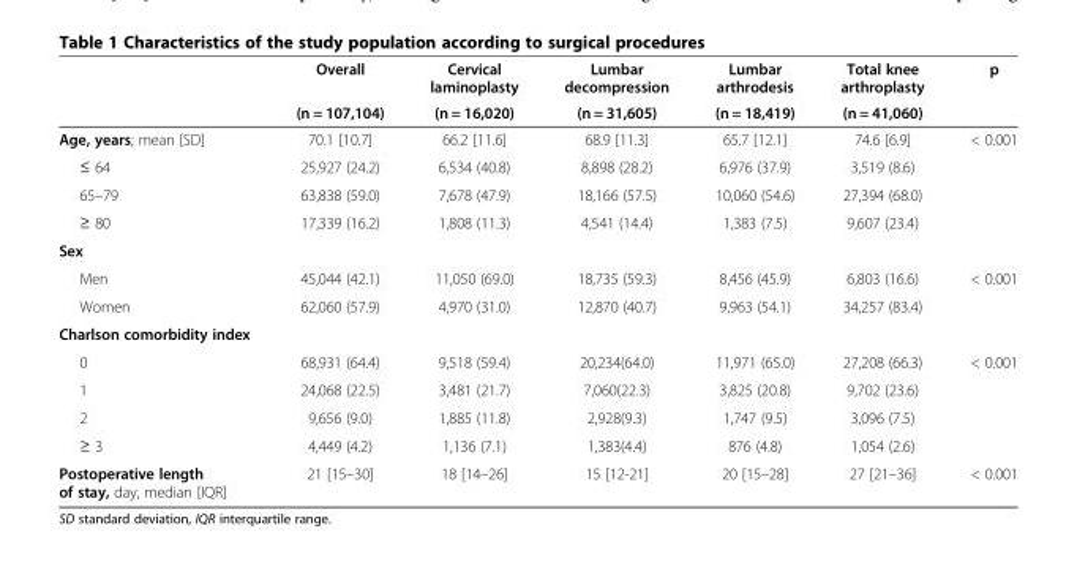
<table><thead><tr><td rowspan="2"></td><td rowspan="2">Overall (n = 107,104)</td><td rowspan="2">Cervical laminoplasty (n = 16,020)</td><td rowspan="2">Lumbar decompression (n = 31,605)</td><td rowspan="2">Lumbar arthrodesis (n = 18,419)</td><td rowspan="2">Total knee arthroplasty (n = 41,060)</td><td rowspan="2">p</td></tr><tr></tr></thead><tbody><tr><td>Age, years; mean [SD]</td><td>70.1 [10.7]</td><td>66.2 [11.6]</td><td>68.9 [11.3]</td><td>65.7 [12.1]</td><td>74.6 [6.9]</td><td>&lt; 0.001</td></tr><tr><td>≤ 64</td><td>25,927 (24.2)</td><td>6,534 (40.8)</td><td>8,898 (28.2)</td><td>6,976 (37.9)</td><td>3,519 (8.6)</td><td></td></tr><tr><td>65–79</td><td>63,838 (59.0)</td><td>7,678 (47.9)</td><td>18,166 (57.5)</td><td>10,060 (54.6)</td><td>27,394 (68.0)</td><td></td></tr><tr><td>≥ 80</td><td>17,339 (16.2)</td><td>1,808 (11.3)</td><td>4,541 (14.4)</td><td>1,383 (7.5)</td><td>9,607 (23.4)</td><td></td></tr><tr><td colspan="7">Sex</td></tr><tr><td>Men</td><td>45,044 (42.1)</td><td>11,050 (69.0)</td><td>18,735 (59.3)</td><td>8,456 (45.9)</td><td>6,803 (16.6)</td><td>&lt; 0.001</td></tr><tr><td>Women</td><td>62,060 (57.9)</td><td>4,970 (31.0)</td><td>12,870 (40.7)</td><td>9,963 (54.1)</td><td>34,257 (83.4)</td><td></td></tr><tr><td colspan="7">Charlson comorbidity index</td></tr><tr><td>0</td><td>68,931 (64.4)</td><td>9,518 (59.4)</td><td>20,234(64.0)</td><td>11,971 (65.0)</td><td>27,208 (66.3)</td><td>&lt; 0.001</td></tr><tr><td>1</td><td>24,068 (22.5)</td><td>3,481 (21.7)</td><td>7,060(22.3)</td><td>3,825 (20.8)</td><td>9,702 (23.6)</td><td></td></tr><tr><td>2</td><td>9,656 (9.0)</td><td>1,885 (11.8)</td><td>2,928(9.3)</td><td>1,747 (9.5)</td><td>3,096 (7.5)</td><td></td></tr><tr><td>≥ 3</td><td>4,449 (4.2)</td><td>1,136 (7.1)</td><td>1,383(4.4)</td><td>876 (4.8)</td><td>1,054 (2.6)</td><td></td></tr><tr><td>Postoperative length of stay, day, median [IQR]</td><td>21 [15–30]</td><td>18 [14–26]</td><td>15 [12-21]</td><td>20 [15–28]</td><td>27 [21–36]</td><td>&lt; 0.001</td></tr></tbody></table>